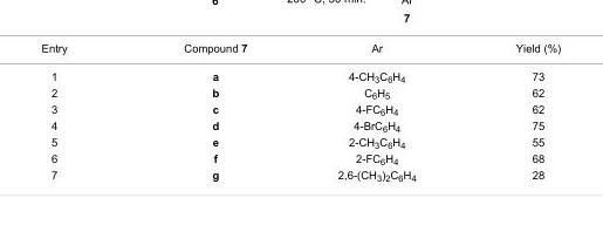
<table><tbody><tr><td>Entry</td><td>Compound 7</td><td>Ar</td><td>Yield (%)</td></tr><tr><td>1</td><td>a</td><td>4-CH<sub>3</sub>C<sub>6</sub>H<sub>4</sub></td><td>73</td></tr><tr><td>2</td><td>b</td><td>C<sub>6</sub>H<sub>5</sub></td><td>62</td></tr><tr><td>3</td><td>c</td><td>4-FC<sub>6</sub>H<sub>4</sub></td><td>62</td></tr><tr><td>4</td><td>d</td><td>4-BrC<sub>6</sub>H<sub>4</sub></td><td>75</td></tr><tr><td>5</td><td>e</td><td>2-CH<sub>3</sub>C<sub>6</sub>H<sub>4</sub></td><td>55</td></tr><tr><td>6</td><td>f</td><td>2-FC<sub>6</sub>H<sub>4</sub></td><td>68</td></tr><tr><td>7</td><td>g</td><td>2,6-(CH<sub>3</sub>)<sub>2</sub>C<sub>6</sub>H<sub>4</sub></td><td>28</td></tr></tbody></table>